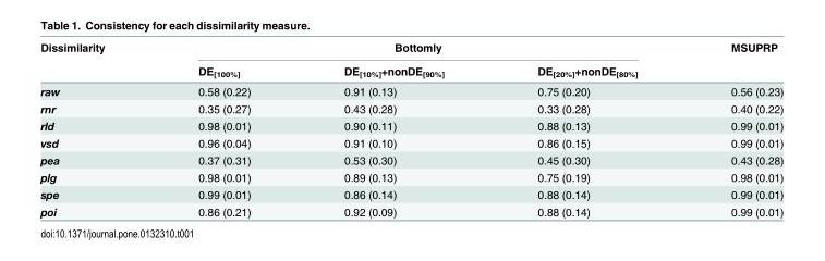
<table><thead><tr><td rowspan="2">Dissimilarity</td><td colspan="3">Bottomly</td><td rowspan="2">MSUPRP</td></tr><tr><td>DE<sub>[100%]</sub></td><td>DE<sub>[10%]</sub>+nonDE<sub>[90%]</sub></td><td>DE<sub>[20%]</sub>+nonDE<sub>[80%]</sub></td></tr></thead><tbody><tr><td>raw</td><td>0.58 (0.22)</td><td>0.91 (0.13)</td><td>0.75 (0.20)</td><td>0.56 (0.23)</td></tr><tr><td>rnr</td><td>0.35 (0.27)</td><td>0.43 (0.28)</td><td>0.33 (0.28)</td><td>0.40 (0.22)</td></tr><tr><td>rld</td><td>0.98 (0.01)</td><td>0.90 (0.11)</td><td>0.88 (0.13)</td><td>0.99 (0.01)</td></tr><tr><td>vsd</td><td>0.96 (0.04)</td><td>0.91 (0.10)</td><td>0.86 (0.15)</td><td>0.99 (0.01)</td></tr><tr><td>pea</td><td>0.37 (0.31)</td><td>0.53 (0.30)</td><td>0.45 (0.30)</td><td>0.43 (0.28)</td></tr><tr><td>plg</td><td>0.98 (0.01)</td><td>0.89 (0.13)</td><td>0.75 (0.19)</td><td>0.98 (0.01)</td></tr><tr><td>spe</td><td>0.99 (0.01)</td><td>0.86 (0.14)</td><td>0.88 (0.14)</td><td>0.99 (0.01)</td></tr><tr><td>poi</td><td>0.86 (0.21)</td><td>0.92 (0.09)</td><td>0.88 (0.14)</td><td>0.99 (0.01)</td></tr></tbody></table>